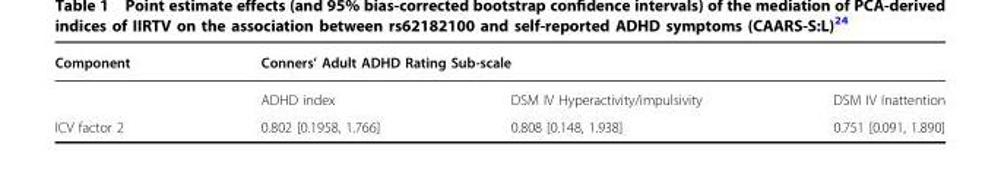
<table><thead><tr><td rowspan="2">Component</td><td colspan="3">Conners’ Adult ADHD Rating Sub-scale</td></tr><tr><td>ADHD index</td><td>DSM IV Hyperactivity/impulsivity</td><td>DSM IV Inattention</td></tr></thead><tbody><tr><td>ICV factor 2</td><td>0.802 [0.1958, 1.766]</td><td>0.808 [0.148, 1.938]</td><td>0.751 [0.091, 1.890]</td></tr></tbody></table>